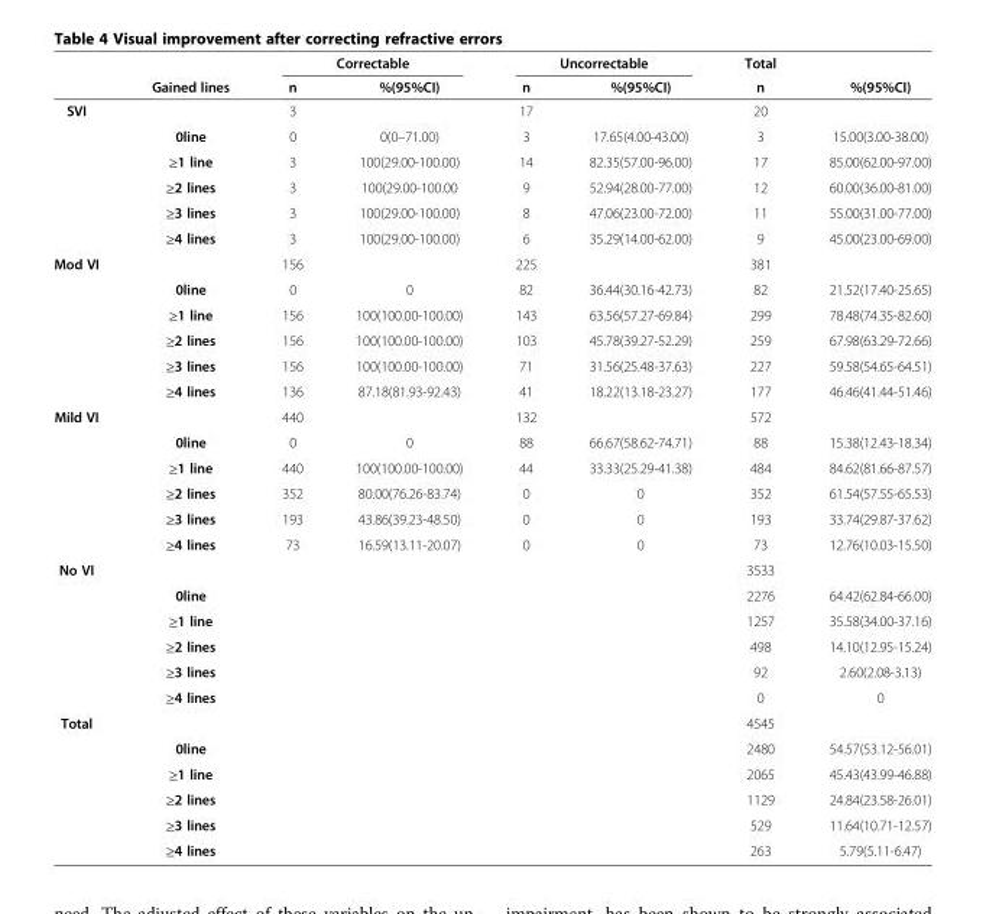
<table><thead><tr><td rowspan="2"></td><td rowspan="2">Gained lines</td><td colspan="2">Correctable</td><td colspan="2">Uncorrectable</td><td rowspan="2">Total n</td><td rowspan="2">%(95%CI)</td></tr><tr><td>n</td><td>%(95%CI)</td><td>n</td><td>%(95%CI)</td></tr></thead><tbody><tr><td rowspan="6">SVI</td><td></td><td>3</td><td></td><td>17</td><td></td><td>20</td><td></td></tr><tr><td>0line</td><td>0</td><td>0(0–71.00)</td><td>3</td><td>17.65(4.00-43.00)</td><td>3</td><td>15.00(3.00-38.00)</td></tr><tr><td>≥1 line</td><td>3</td><td>100(29.00-100.00)</td><td>14</td><td>82.35(57.00-96.00)</td><td>17</td><td>85.00(62.00-97.00)</td></tr><tr><td>≥2 lines</td><td>3</td><td>100(29.00-100.00</td><td>9</td><td>52.94(28.00-77.00)</td><td>12</td><td>60.00(36.00-81.00)</td></tr><tr><td>≥3 lines</td><td>3</td><td>100(29.00-100.00)</td><td>8</td><td>47.06(23.00-72.00)</td><td>11</td><td>55.00(31.00-77.00)</td></tr><tr><td>≥4 lines</td><td>3</td><td>100(29.00-100.00)</td><td>6</td><td>35.29(14.00-62.00)</td><td>9</td><td>45.00(23.00-69.00)</td></tr><tr><td rowspan="6">Mod VI</td><td></td><td>156</td><td></td><td>225</td><td></td><td>381</td><td></td></tr><tr><td>0line</td><td>0</td><td>0</td><td>82</td><td>36.44(30.16-42.73)</td><td>82</td><td>21.52(17.40-25.65)</td></tr><tr><td>≥1 line</td><td>156</td><td>100(100.00-100.00)</td><td>143</td><td>63.56(57.27-69.84)</td><td>299</td><td>78.48(74.35-82.60)</td></tr><tr><td>≥2 lines</td><td>156</td><td>100(100.00-100.00)</td><td>103</td><td>45.78(39.27-52.29)</td><td>259</td><td>67.98(63.29-72.66)</td></tr><tr><td>≥3 lines</td><td>156</td><td>100(100.00-100.00)</td><td>71</td><td>31.56(25.48-37.63)</td><td>227</td><td>59.58(54.65-64.51)</td></tr><tr><td>≥4 lines</td><td>136</td><td>87.18(81.93-92.43)</td><td>41</td><td>18.22(13.18-23.27)</td><td>177</td><td>46.46(41.44-51.46)</td></tr><tr><td rowspan="6">Mild VI</td><td></td><td>440</td><td></td><td>132</td><td></td><td>572</td><td></td></tr><tr><td>0line</td><td>0</td><td>0</td><td>88</td><td>66.67(58.62-74.71)</td><td>88</td><td>15.38(12.43-18.34)</td></tr><tr><td>≥1 line</td><td>440</td><td>100(100.00-100.00)</td><td>44</td><td>33.33(25.29-41.38)</td><td>484</td><td>84.62(81.66-87.57)</td></tr><tr><td>≥2 lines</td><td>352</td><td>80.00(76.26-83.74)</td><td>0</td><td>0</td><td>352</td><td>61.54(57.55-65.53)</td></tr><tr><td>≥3 lines</td><td>193</td><td>43.86(39.23-48.50)</td><td>0</td><td>0</td><td>193</td><td>33.74(29.87-37.62)</td></tr><tr><td>≥4 lines</td><td>73</td><td>16.59(13.11-20.07)</td><td>0</td><td>0</td><td>73</td><td>12.76(10.03-15.50)</td></tr><tr><td rowspan="6">No VI</td><td></td><td></td><td></td><td></td><td></td><td>3533</td><td></td></tr><tr><td>0line</td><td></td><td></td><td></td><td></td><td>2276</td><td>64.42(62.84-66.00)</td></tr><tr><td>≥1 line</td><td></td><td></td><td></td><td></td><td>1257</td><td>35.58(34.00-37.16)</td></tr><tr><td>≥2 lines</td><td></td><td></td><td></td><td></td><td>498</td><td>14.10(12.95-15.24)</td></tr><tr><td>≥3 lines</td><td></td><td></td><td></td><td></td><td>92</td><td>2.60(2.08-3.13)</td></tr><tr><td>≥4 lines</td><td></td><td></td><td></td><td></td><td>0</td><td>0</td></tr><tr><td rowspan="6">Total</td><td></td><td></td><td></td><td></td><td></td><td>4545</td><td></td></tr><tr><td>0line</td><td></td><td></td><td></td><td></td><td>2480</td><td>54.57(53.12-56.01)</td></tr><tr><td>≥1 line</td><td></td><td></td><td></td><td></td><td>2065</td><td>45.43(43.99-46.88)</td></tr><tr><td>≥2 lines</td><td></td><td></td><td></td><td></td><td>1129</td><td>24.84(23.58-26.01)</td></tr><tr><td>≥3 lines</td><td></td><td></td><td></td><td></td><td>529</td><td>11.64(10.71-12.57)</td></tr><tr><td>≥4 lines</td><td></td><td></td><td></td><td></td><td>263</td><td>5.79(5.11-6.47)</td></tr></tbody></table>